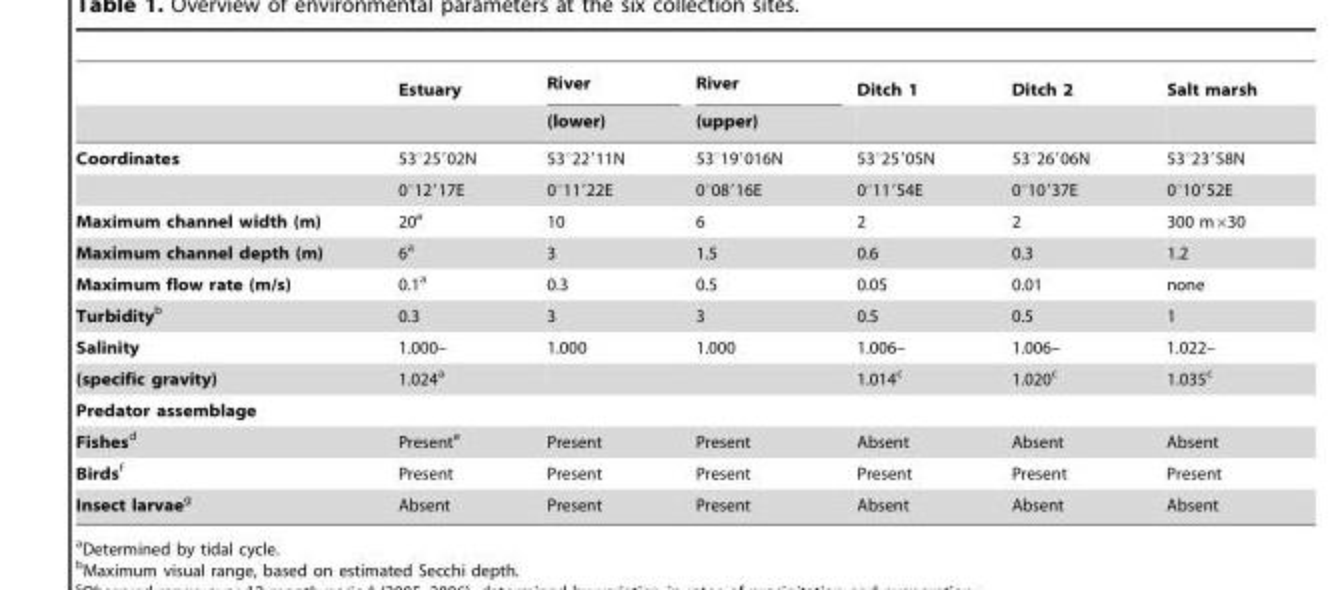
<table><thead><tr><td rowspan="2"></td><td rowspan="2">Estuary</td><td rowspan="2">River (lower)</td><td rowspan="2">River (upper)</td><td rowspan="2">Ditch 1</td><td rowspan="2">Ditch 2</td><td rowspan="2">Salt marsh</td></tr><tr></tr></thead><tbody><tr><td rowspan="2">Coordinates</td><td>53°25′02N</td><td>53°22′11N</td><td>53°19′016N</td><td>53°25′05N</td><td>53°26′06N</td><td>53°23′58N</td></tr><tr><td>0°12′17E</td><td>0°11′22E</td><td>0°08′16E</td><td>0°11′54E</td><td>0°10′37E</td><td>0°10′52E</td></tr><tr><td>Maximum channel width (m)</td><td>20<sup>a</sup></td><td>10</td><td>6</td><td>2</td><td>2</td><td>300 m×30</td></tr><tr><td>Maximum channel depth (m)</td><td>6<sup>a</sup></td><td>3</td><td>1.5</td><td>0.6</td><td>0.3</td><td>1.2</td></tr><tr><td>Maximum flow rate (m/s)</td><td>0.1<sup>a</sup></td><td>0.3</td><td>0.5</td><td>0.05</td><td>0.01</td><td>none</td></tr><tr><td>Turbidityb</td><td>0.3</td><td>3</td><td>3</td><td>0.5</td><td>0.5</td><td>1</td></tr><tr><td>Salinity</td><td>1.000–</td><td>1.000</td><td>1.000</td><td>1.006–</td><td>1.006–</td><td>1.022–</td></tr><tr><td>(specific gravity)</td><td>1.024<sup>a</sup></td><td></td><td></td><td>1.014<sup>c</sup></td><td>1.020<sup>c</sup></td><td>1.035<sup>c</sup></td></tr><tr><td colspan="7">Predator assemblage</td></tr><tr><td>Fishesd</td><td>Present<sup>e</sup></td><td>Present</td><td>Present</td><td>Absent</td><td>Absent</td><td>Absent</td></tr><tr><td>Birdsf</td><td>Present</td><td>Present</td><td>Present</td><td>Present</td><td>Present</td><td>Present</td></tr><tr><td>Insect larvaeg</td><td>Absent</td><td>Present</td><td>Present</td><td>Absent</td><td>Absent</td><td>Absent</td></tr></tbody></table>